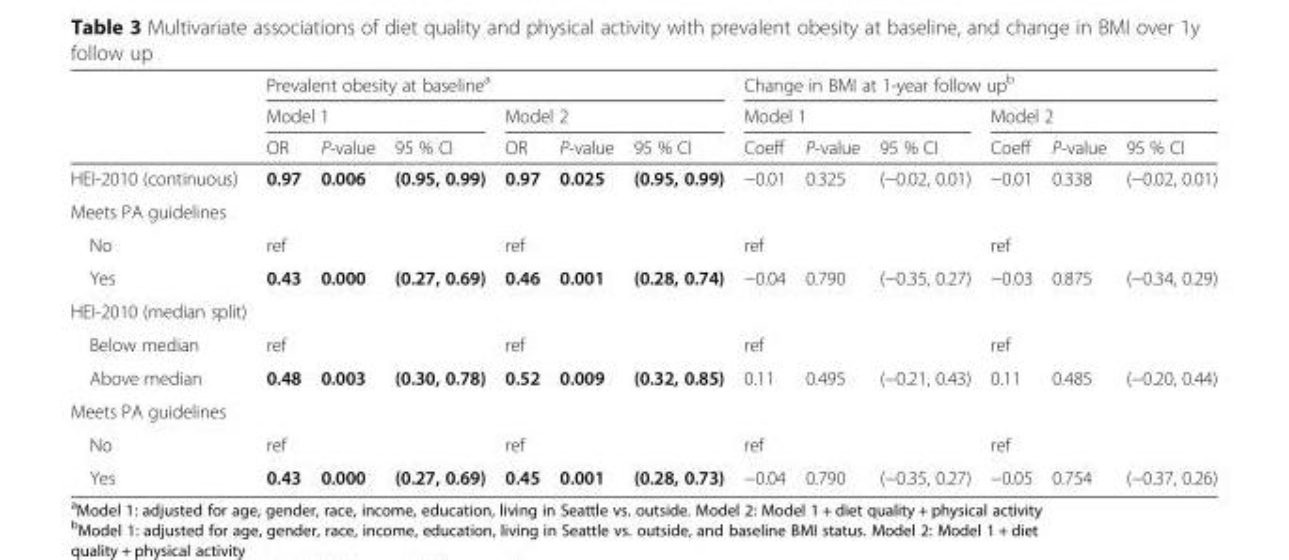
<table><thead><tr><td rowspan="3"></td><td colspan="6">Prevalent obesity at baseline<sup>a</sup></td><td colspan="6">Change in BMI at 1-year follow up<sup>b</sup></td></tr><tr><td colspan="3">Model 1</td><td colspan="3">Model 2</td><td colspan="3">Model 1</td><td colspan="3">Model 2</td></tr><tr><td>OR</td><td>P-value</td><td>95 % CI</td><td>OR</td><td>P-value</td><td>95 % CI</td><td>Coeff</td><td>P-value</td><td>95 % CI</td><td>Coeff</td><td>P-value</td><td>95 % CI</td></tr></thead><tbody><tr><td>HEI-2010 (continuous)</td><td>0.97</td><td>0.006</td><td>(0.95, 0.99)</td><td>0.97</td><td>0.025</td><td>(0.95, 0.99)</td><td>−0.01</td><td>0.325</td><td>(−0.02, 0.01)</td><td>−0.01</td><td>0.338</td><td>(−0.02, 0.01)</td></tr><tr><td colspan="13">Meets PA guidelines</td></tr><tr><td>No</td><td>ref</td><td></td><td></td><td>ref</td><td></td><td></td><td>ref</td><td></td><td></td><td>ref</td><td></td><td></td></tr><tr><td>Yes</td><td>0.43</td><td>0.000</td><td>(0.27, 0.69)</td><td>0.46</td><td>0.001</td><td>(0.28, 0.74)</td><td>−0.04</td><td>0.790</td><td>(−0.35, 0.27)</td><td>−0.03</td><td>0.875</td><td>(−0.34, 0.29)</td></tr><tr><td colspan="13">HEI-2010 (median split)</td></tr><tr><td>Below median</td><td>ref</td><td></td><td></td><td>ref</td><td></td><td></td><td>ref</td><td></td><td></td><td>ref</td><td></td><td></td></tr><tr><td>Above median</td><td>0.48</td><td>0.003</td><td>(0.30, 0.78)</td><td>0.52</td><td>0.009</td><td>(0.32, 0.85)</td><td>0.11</td><td>0.495</td><td>(−0.21, 0.43)</td><td>0.11</td><td>0.485</td><td>(−0.20, 0.44)</td></tr><tr><td colspan="13">Meets PA guidelines</td></tr><tr><td>No</td><td>ref</td><td></td><td></td><td>ref</td><td></td><td></td><td>ref</td><td></td><td></td><td>ref</td><td></td><td></td></tr><tr><td>Yes</td><td>0.43</td><td>0.000</td><td>(0.27, 0.69)</td><td>0.45</td><td>0.001</td><td>(0.28, 0.73)</td><td>−0.04</td><td>0.790</td><td>(−0.35, 0.27)</td><td>−0.05</td><td>0.754</td><td>(−0.37, 0.26)</td></tr></tbody></table>